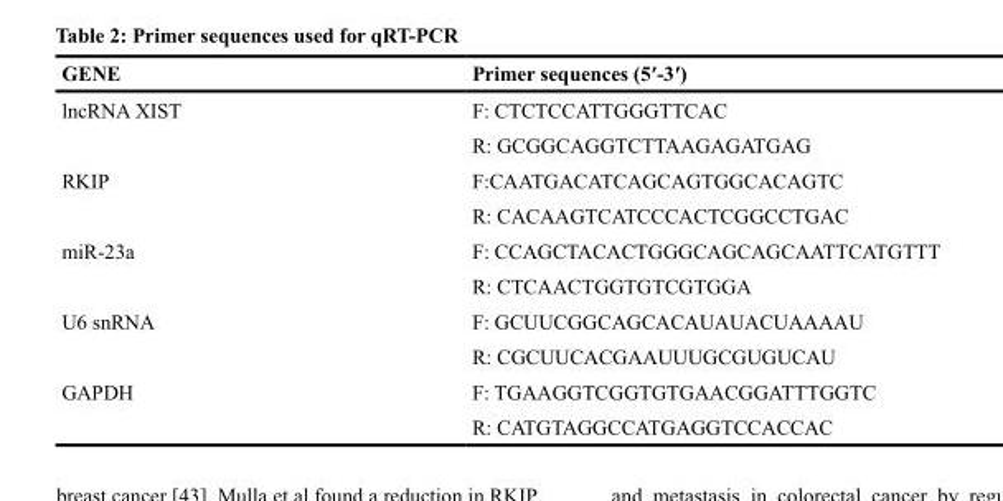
<table><thead><tr><td>GENE</td><td>Primer sequences (5′-3′)</td></tr></thead><tbody><tr><td rowspan="2">lncRNA XIST</td><td>F: CTCTCCATTGGGTTCAC</td></tr><tr><td>R: GCGGCAGGTCTTAAGAGATGAG</td></tr><tr><td rowspan="2">RKIP</td><td>F:CAATGACATCAGCAGTGGCACAGTC</td></tr><tr><td>R: CACAAGTCATCCCACTCGGCCTGAC</td></tr><tr><td rowspan="2">miR-23a</td><td>F: CCAGCTACACTGGGCAGCAGCAATTCATGTTT</td></tr><tr><td>R: CTCAACTGGTGTCGTGGA</td></tr><tr><td rowspan="2">U6 snRNA</td><td>F: GCUUCGGCAGCACAUAUACUAAAAU</td></tr><tr><td>R: CGCUUCACGAAUUUGCGUGUCAU</td></tr><tr><td rowspan="2">GAPDH</td><td>F: TGAAGGTCGGTGTGAACGGATTTGGTC</td></tr><tr><td>R: CATGTAGGCCATGAGGTCCACCAC</td></tr></tbody></table>